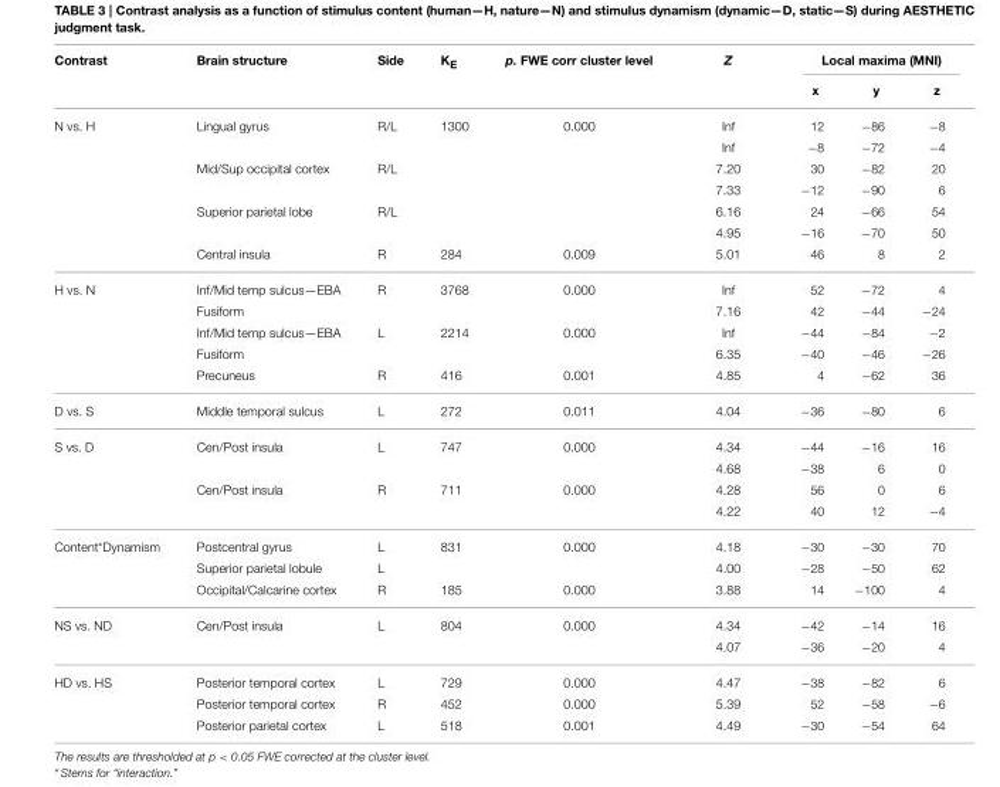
<table><thead><tr><td rowspan="2">Contrast</td><td rowspan="2">Brain structure</td><td rowspan="2">Side</td><td rowspan="2">K<sub>E</sub></td><td rowspan="2">p. FWE corr cluster level</td><td rowspan="2">Z</td><td colspan="3">Local maxima (MNI)</td></tr><tr><td>x</td><td>y</td><td>z</td></tr></thead><tbody><tr><td rowspan="7">N vs. H</td><td>Lingual gyrus</td><td>R/L</td><td>1300</td><td>0.000</td><td>Inf</td><td>12</td><td>−86</td><td>−8</td></tr><tr><td></td><td></td><td></td><td></td><td>Inf</td><td>−8</td><td>−72</td><td>−4</td></tr><tr><td>Mid/Sup occipital cortex</td><td>R/L</td><td></td><td></td><td>7.20</td><td>30</td><td>−82</td><td>20</td></tr><tr><td></td><td></td><td></td><td></td><td>7.33</td><td>−12</td><td>−90</td><td>6</td></tr><tr><td>Superior parietal lobe</td><td>R/L</td><td></td><td></td><td>6.16</td><td>24</td><td>−66</td><td>54</td></tr><tr><td></td><td></td><td></td><td></td><td>4.95</td><td>−16</td><td>−70</td><td>50</td></tr><tr><td>Central insula</td><td>R</td><td>284</td><td>0.009</td><td>5.01</td><td>46</td><td>8</td><td>2</td></tr><tr><td rowspan="5">H vs. N</td><td>Inf/Mid temp sulcus—EBA</td><td>R</td><td>3768</td><td>0.000</td><td>Inf</td><td>52</td><td>−72</td><td>4</td></tr><tr><td>Fusiform</td><td></td><td></td><td></td><td>7.16</td><td>42</td><td>−44</td><td>−24</td></tr><tr><td>Inf/Mid temp sulcus—EBA</td><td>L</td><td>2214</td><td>0.000</td><td>Inf</td><td>−44</td><td>−84</td><td>−2</td></tr><tr><td>Fusiform</td><td></td><td></td><td></td><td>6.35</td><td>−40</td><td>−46</td><td>−26</td></tr><tr><td>Precuneus</td><td>R</td><td>416</td><td>0.001</td><td>4.85</td><td>4</td><td>−62</td><td>36</td></tr><tr><td>D vs. S</td><td>Middle temporal sulcus</td><td>L</td><td>272</td><td>0.011</td><td>4.04</td><td>−36</td><td>−80</td><td>6</td></tr><tr><td rowspan="4">S vs. D</td><td>Cen/Post insula</td><td>L</td><td>747</td><td>0.000</td><td>4.34</td><td>−44</td><td>−16</td><td>16</td></tr><tr><td></td><td></td><td></td><td></td><td>4.68</td><td>−38</td><td>6</td><td>0</td></tr><tr><td>Cen/Post insula</td><td>R</td><td>711</td><td>0.000</td><td>4.28</td><td>56</td><td>0</td><td>6</td></tr><tr><td></td><td></td><td></td><td></td><td>4.22</td><td>40</td><td>12</td><td>−4</td></tr><tr><td rowspan="3">Content*Dynamism</td><td>Postcentral gyrus</td><td>L</td><td>831</td><td>0.000</td><td>4.18</td><td>−30</td><td>−30</td><td>70</td></tr><tr><td>Superior parietal lobule</td><td>L</td><td></td><td></td><td>4.00</td><td>−28</td><td>−50</td><td>62</td></tr><tr><td>Occipital/Calcarine cortex</td><td>R</td><td>185</td><td>0.000</td><td>3.88</td><td>14</td><td>−100</td><td>4</td></tr><tr><td rowspan="2">NS vs. ND</td><td>Cen/Post insula</td><td>L</td><td>804</td><td>0.000</td><td>4.34</td><td>−42</td><td>−14</td><td>16</td></tr><tr><td></td><td></td><td></td><td></td><td>4.07</td><td>−36</td><td>−20</td><td>4</td></tr><tr><td rowspan="3">HD vs. HS</td><td>Posterior temporal cortex</td><td>L</td><td>729</td><td>0.000</td><td>4.47</td><td>−38</td><td>−82</td><td>6</td></tr><tr><td>Posterior temporal cortex</td><td>R</td><td>452</td><td>0.000</td><td>5.39</td><td>52</td><td>−58</td><td>−6</td></tr><tr><td>Posterior parietal cortex</td><td>L</td><td>518</td><td>0.001</td><td>4.49</td><td>−30</td><td>−54</td><td>64</td></tr></tbody></table>